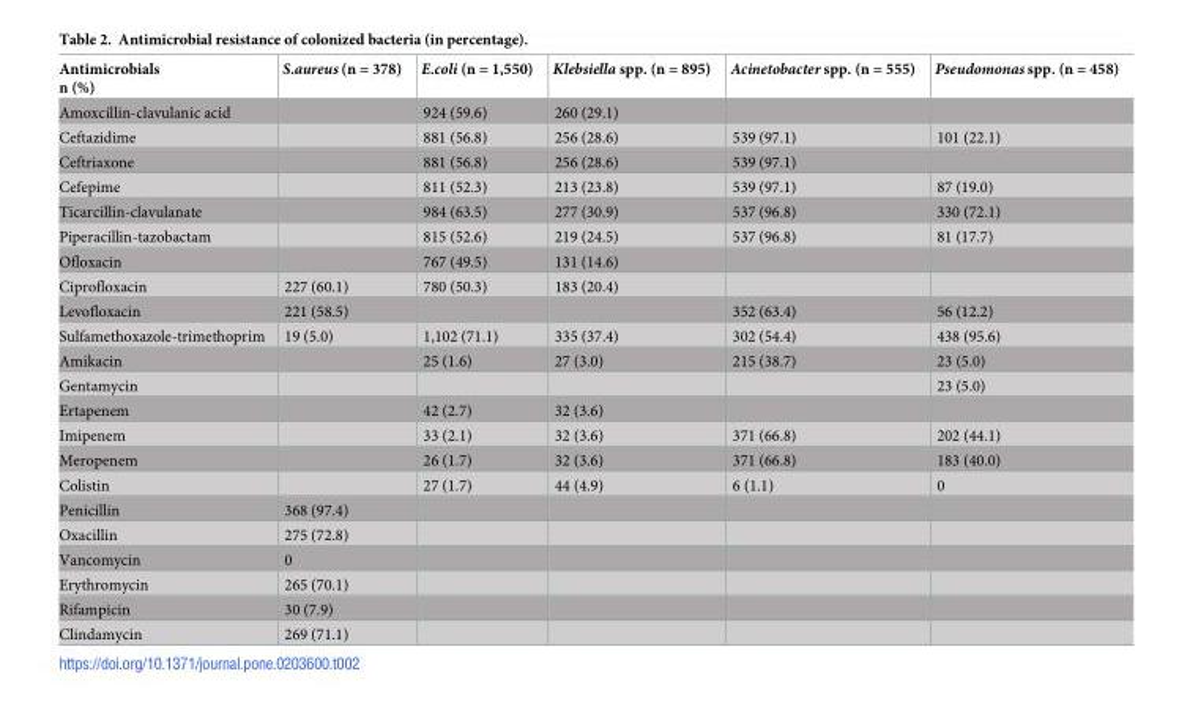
<table><thead><tr><td>Antimicrobials n (%)</td><td>S.aureus (n = 378)</td><td>E.coli (n = 1,550)</td><td>Klebsiella spp. (n = 895)</td><td>Acinetobacter spp. (n = 555)</td><td>Pseudomonas spp. (n = 458)</td></tr></thead><tbody><tr><td>Amoxcillin-clavulanic acid</td><td></td><td>924 (59.6)</td><td>260 (29.1)</td><td></td><td></td></tr><tr><td>Ceftazidime</td><td></td><td>881 (56.8)</td><td>256 (28.6)</td><td>539 (97.1)</td><td>101 (22.1)</td></tr><tr><td>Ceftriaxone</td><td></td><td>881 (56.8)</td><td>256 (28.6)</td><td>539 (97.1)</td><td></td></tr><tr><td>Cefepime</td><td></td><td>811 (52.3)</td><td>213 (23.8)</td><td>539 (97.1)</td><td>87 (19.0)</td></tr><tr><td>Ticarcillin-clavulanate</td><td></td><td>984 (63.5)</td><td>277 (30.9)</td><td>537 (96.8)</td><td>330 (72.1)</td></tr><tr><td>Piperacillin-tazobactam</td><td></td><td>815 (52.6)</td><td>219 (24.5)</td><td>537 (96.8)</td><td>81 (17.7)</td></tr><tr><td>Ofloxacin</td><td></td><td>767 (49.5)</td><td>131 (14.6)</td><td></td><td></td></tr><tr><td>Ciprofloxacin</td><td>227 (60.1)</td><td>780 (50.3)</td><td>183 (20.4)</td><td></td><td></td></tr><tr><td>Levofloxacin</td><td>221 (58.5)</td><td></td><td></td><td>352 (63.4)</td><td>56 (12.2)</td></tr><tr><td>Sulfamethoxazole-trimethoprim</td><td>19 (5.0)</td><td>1,102 (71.1)</td><td>335 (37.4)</td><td>302 (54.4)</td><td>438 (95.6)</td></tr><tr><td>Amikacin</td><td></td><td>25 (1.6)</td><td>27 (3.0)</td><td>215 (38.7)</td><td>23 (5.0)</td></tr><tr><td>Gentamycin</td><td></td><td></td><td></td><td></td><td>23 (5.0)</td></tr><tr><td>Ertapenem</td><td></td><td>42 (2.7)</td><td>32 (3.6)</td><td></td><td></td></tr><tr><td>Imipenem</td><td></td><td>33 (2.1)</td><td>32 (3.6)</td><td>371 (66.8)</td><td>202 (44.1)</td></tr><tr><td>Meropenem</td><td></td><td>26 (1.7)</td><td>32 (3.6)</td><td>371 (66.8)</td><td>183 (40.0)</td></tr><tr><td>Colistin</td><td></td><td>27 (1.7)</td><td>44 (4.9)</td><td>6 (1.1)</td><td>0</td></tr><tr><td>Penicillin</td><td>368 (97.4)</td><td></td><td></td><td></td><td></td></tr><tr><td>Oxacillin</td><td>275 (72.8)</td><td></td><td></td><td></td><td></td></tr><tr><td>Vancomycin</td><td>0</td><td></td><td></td><td></td><td></td></tr><tr><td>Erythromycin</td><td>265 (70.1)</td><td></td><td></td><td></td><td></td></tr><tr><td>Rifampicin</td><td>30 (7.9)</td><td></td><td></td><td></td><td></td></tr><tr><td>Clindamycin</td><td>269 (71.1)</td><td></td><td></td><td></td><td></td></tr></tbody></table>